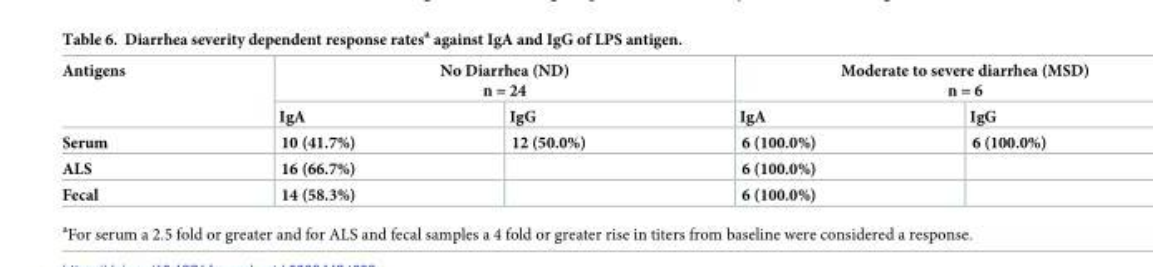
<table><thead><tr><td rowspan="2">Antigens</td><td colspan="2">No Diarrhea (ND) n = 24</td><td colspan="2">Moderate to severe diarrhea (MSD) n = 6</td></tr><tr><td>IgA</td><td>IgG</td><td>IgA</td><td>IgG</td></tr></thead><tbody><tr><td>Serum</td><td>10 (41.7%)</td><td>12 (50.0%)</td><td>6 (100.0%)</td><td>6 (100.0%)</td></tr><tr><td>ALS</td><td>16 (66.7%)</td><td></td><td>6 (100.0%)</td><td></td></tr><tr><td>Fecal</td><td>14 (58.3%)</td><td></td><td>6 (100.0%)</td><td></td></tr></tbody></table>